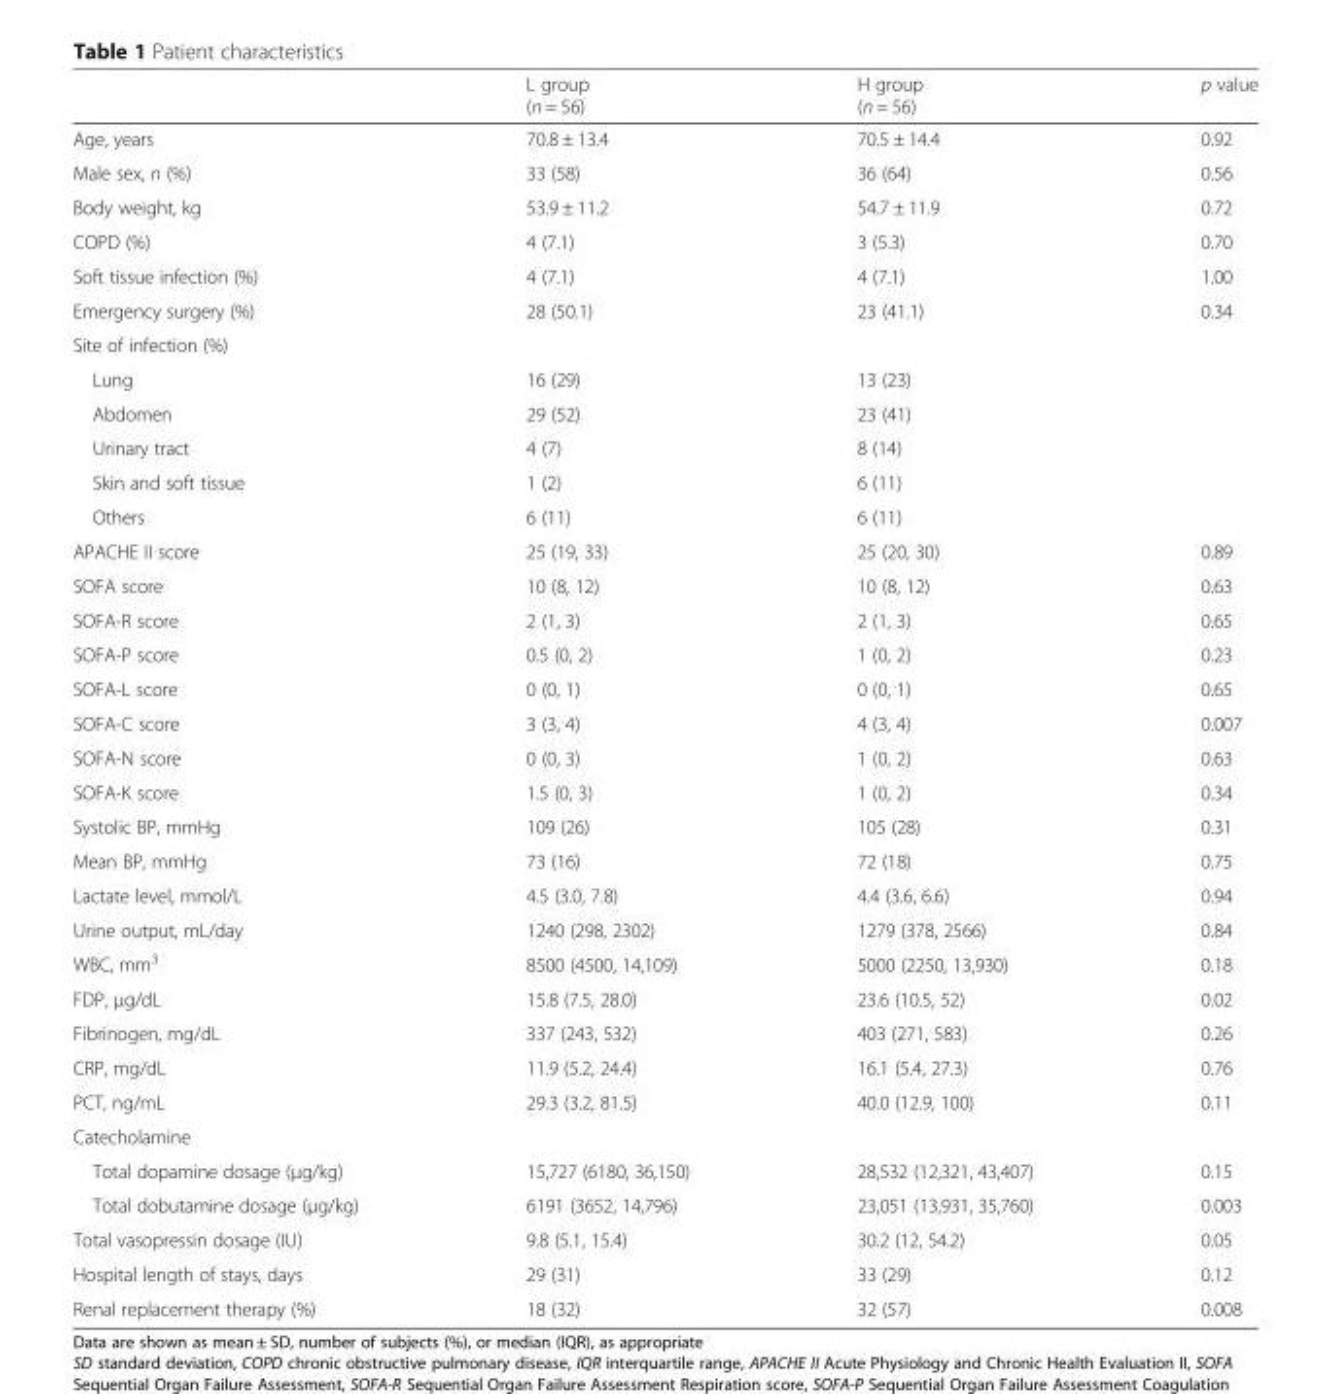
<table><thead><tr><td></td><td>L group (n = 56)</td><td>H group (n = 56)</td><td>p value</td></tr></thead><tbody><tr><td>Age, years</td><td>70.8 ± 13.4</td><td>70.5 ± 14.4</td><td>0.92</td></tr><tr><td>Male sex, n (%)</td><td>33 (58)</td><td>36 (64)</td><td>0.56</td></tr><tr><td>Body weight, kg</td><td>53.9 ± 11.2</td><td>54.7 ± 11.9</td><td>0.72</td></tr><tr><td>COPD (%)</td><td>4 (7.1)</td><td>3 (5.3)</td><td>0.70</td></tr><tr><td>Soft tissue infection (%)</td><td>4 (7.1)</td><td>4 (7.1)</td><td>1.00</td></tr><tr><td>Emergency surgery (%)</td><td>28 (50.1)</td><td>23 (41.1)</td><td>0.34</td></tr><tr><td colspan="4">Site of infection (%)</td></tr><tr><td>Lung</td><td>16 (29)</td><td>13 (23)</td><td></td></tr><tr><td>Abdomen</td><td>29 (52)</td><td>23 (41)</td><td></td></tr><tr><td>Urinary tract</td><td>4 (7)</td><td>8 (14)</td><td></td></tr><tr><td>Skin and soft tissue</td><td>1 (2)</td><td>6 (11)</td><td></td></tr><tr><td>Others</td><td>6 (11)</td><td>6 (11)</td><td></td></tr><tr><td>APACHE II score</td><td>25 (19, 33)</td><td>25 (20, 30)</td><td>0.89</td></tr><tr><td>SOFA score</td><td>10 (8, 12)</td><td>10 (8, 12)</td><td>0.63</td></tr><tr><td>SOFA-R score</td><td>2 (1, 3)</td><td>2 (1, 3)</td><td>0.65</td></tr><tr><td>SOFA-P score</td><td>0.5 (0, 2)</td><td>1 (0, 2)</td><td>0.23</td></tr><tr><td>SOFA-L score</td><td>0 (0, 1)</td><td>0 (0, 1)</td><td>0.65</td></tr><tr><td>SOFA-C score</td><td>3 (3, 4)</td><td>4 (3, 4)</td><td>0.007</td></tr><tr><td>SOFA-N score</td><td>0 (0, 3)</td><td>1 (0, 2)</td><td>0.63</td></tr><tr><td>SOFA-K score</td><td>1.5 (0, 3)</td><td>1 (0, 2)</td><td>0.34</td></tr><tr><td>Systolic BP, mmHg</td><td>109 (26)</td><td>105 (28)</td><td>0.31</td></tr><tr><td>Mean BP, mmHg</td><td>73 (16)</td><td>72 (18)</td><td>0.75</td></tr><tr><td>Lactate level, mmol/L</td><td>4.5 (3.0, 7.8)</td><td>4.4 (3.6, 6.6)</td><td>0.94</td></tr><tr><td>Urine output, mL/day</td><td>1240 (298, 2302)</td><td>1279 (378, 2566)</td><td>0.84</td></tr><tr><td>WBC, mm<sup>3</sup></td><td>8500 (4500, 14,109)</td><td>5000 (2250, 13,930)</td><td>0.18</td></tr><tr><td>FDP, μg/dL</td><td>15.8 (7.5, 28.0)</td><td>23.6 (10.5, 52)</td><td>0.02</td></tr><tr><td>Fibrinogen, mg/dL</td><td>337 (243, 532)</td><td>403 (271, 583)</td><td>0.26</td></tr><tr><td>CRP, mg/dL</td><td>11.9 (5.2, 24.4)</td><td>16.1 (5.4, 27.3)</td><td>0.76</td></tr><tr><td>PCT, ng/mL</td><td>29.3 (3.2, 81.5)</td><td>40.0 (12.9, 100)</td><td>0.11</td></tr><tr><td colspan="4">Catecholamine</td></tr><tr><td>Total dopamine dosage (μg/kg)</td><td>15,727 (6180, 36,150)</td><td>28,532 (12,321, 43,407)</td><td>0.15</td></tr><tr><td>Total dobutamine dosage (μg/kg)</td><td>6191 (3652, 14,796)</td><td>23,051 (13,931, 35,760)</td><td>0.003</td></tr><tr><td>Total vasopressin dosage (IU)</td><td>9.8 (5.1, 15.4)</td><td>30.2 (12, 54.2)</td><td>0.05</td></tr><tr><td>Hospital length of stays, days</td><td>29 (31)</td><td>33 (29)</td><td>0.12</td></tr><tr><td>Renal replacement therapy (%)</td><td>18 (32)</td><td>32 (57)</td><td>0.008</td></tr></tbody></table>